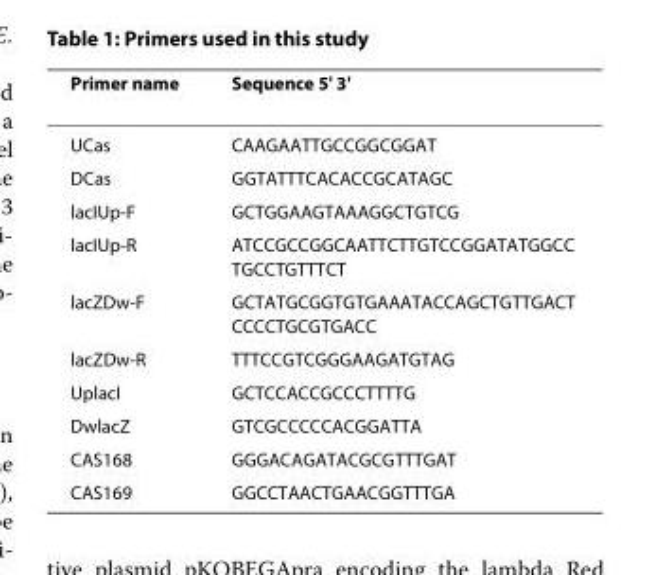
<table><tbody><tr><td>Primer name</td><td>Sequence 5&#x27; 3&#x27;</td></tr><tr><td>UCas</td><td>CAAGAATTGCCGGCGGAT</td></tr><tr><td>DCas</td><td>GGTATTTCACACCGCATAGC</td></tr><tr><td>lacIUp-F</td><td>GCTGGAAGTAAAGGCTGTCG</td></tr><tr><td>lacIUp-R</td><td>ATCCGCCGGCAATTCTTGTCCGGATATGGCC TGCCTGTTTCT</td></tr><tr><td>lacZDw-F</td><td>GCTATGCGGTGTGAAATACCAGCTGTTGACT CCCCTGCGTGACC</td></tr><tr><td>lacZDw-R</td><td>TTTCCGTCGGGAAGATGTAG</td></tr><tr><td>UplacI</td><td>GCTCCACCGCCCTTTTG</td></tr><tr><td>DwlacZ</td><td>GTCGCCCCCACGGATTA</td></tr><tr><td>CAS168</td><td>GGGACAGATACGCGTTTGAT</td></tr><tr><td>CAS169</td><td>GGCCTAACTGAACGGTTTGA</td></tr></tbody></table>